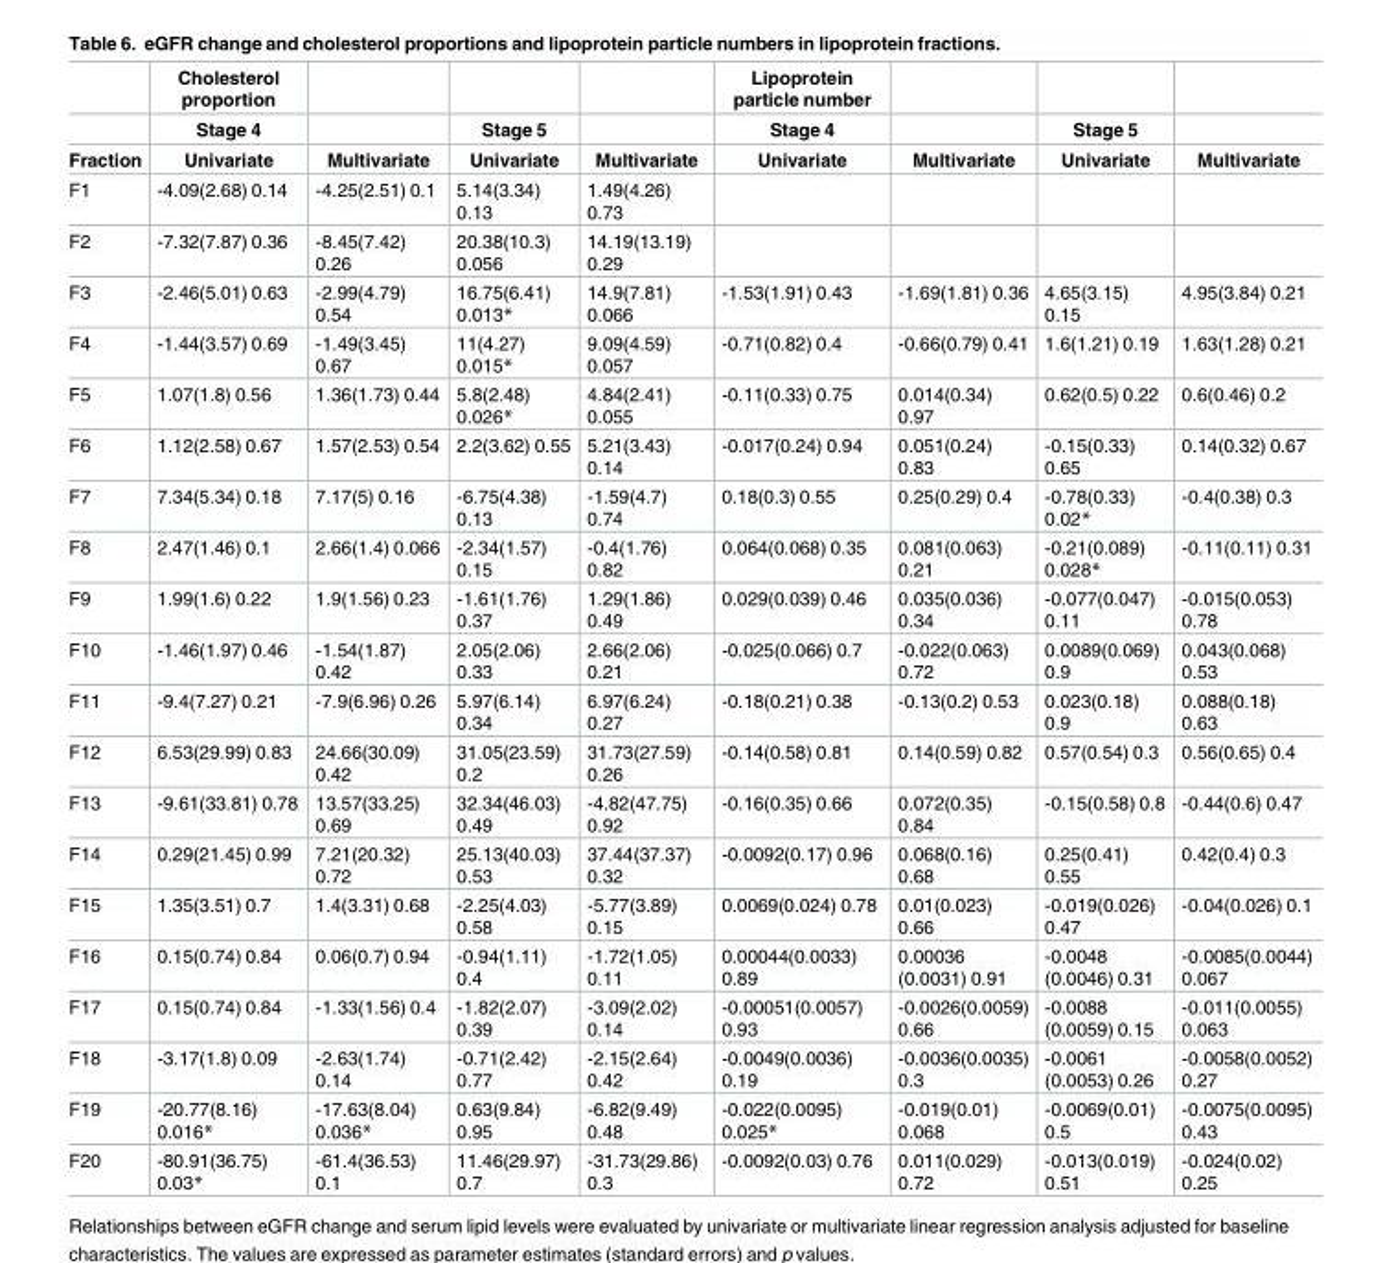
<table><thead><tr><td rowspan="3">Fraction</td><td rowspan="3">Cholesterol proportion Stage 4 Univariate</td><td rowspan="3">Multivariate</td><td rowspan="3">Stage 5 Univariate</td><td rowspan="3">Multivariate</td><td rowspan="3">Lipoprotein particle number Stage 4 Univariate</td><td rowspan="3">Multivariate</td><td rowspan="3">Stage 5 Univariate</td><td rowspan="3">Multivariate</td></tr><tr></tr><tr></tr></thead><tbody><tr><td>F1</td><td>-4.09(2.68) 0.14</td><td>-4.25(2.51) 0.1</td><td>5.14(3.34) 0.13</td><td>1.49(4.26) 0.73</td><td></td><td></td><td></td><td></td></tr><tr><td>F2</td><td>-7.32(7.87) 0.36</td><td>-8.45(7.42) 0.26</td><td>20.38(10.3) 0.056</td><td>14.19(13.19) 0.29</td><td></td><td></td><td></td><td></td></tr><tr><td>F3</td><td>-2.46(5.01) 0.63</td><td>-2.99(4.79) 0.54</td><td>16.75(6.41) 0.013*</td><td>14.9(7.81) 0.066</td><td>-1.53(1.91) 0.43</td><td>-1.69(1.81) 0.36</td><td>4.65(3.15) 0.15</td><td>4.95(3.84) 0.21</td></tr><tr><td>F4</td><td>-1.44(3.57) 0.69</td><td>-1.49(3.45) 0.67</td><td>11(4.27) 0.015*</td><td>9.09(4.59) 0.057</td><td>-0.71(0.82) 0.4</td><td>-0.66(0.79) 0.41</td><td>1.6(1.21) 0.19</td><td>1.63(1.28) 0.21</td></tr><tr><td>F5</td><td>1.07(1.8) 0.56</td><td>1.36(1.73) 0.44</td><td>5.8(2.48) 0.026*</td><td>4.84(2.41) 0.055</td><td>-0.11(0.33) 0.75</td><td>0.014(0.34) 0.97</td><td>0.62(0.5) 0.22</td><td>0.6(0.46) 0.2</td></tr><tr><td>F6</td><td>1.12(2.58) 0.67</td><td>1.57(2.53) 0.54</td><td>2.2(3.62) 0.55</td><td>5.21(3.43) 0.14</td><td>-0.017(0.24) 0.94</td><td>0.051(0.24) 0.83</td><td>-0.15(0.33) 0.65</td><td>0.14(0.32) 0.67</td></tr><tr><td>F7</td><td>7.34(5.34) 0.18</td><td>7.17(5) 0.16</td><td>-6.75(4.38) 0.13</td><td>-1.59(4.7) 0.74</td><td>0.18(0.3) 0.55</td><td>0.25(0.29) 0.4</td><td>-0.78(0.33) 0.02*</td><td>-0.4(0.38) 0.3</td></tr><tr><td>F8</td><td>2.47(1.46) 0.1</td><td>2.66(1.4) 0.066</td><td>-2.34(1.57) 0.15</td><td>-0.4(1.76) 0.82</td><td>0.064(0.068) 0.35</td><td>0.081(0.063) 0.21</td><td>-0.21(0.089) 0.028*</td><td>-0.11(0.11) 0.31</td></tr><tr><td>F9</td><td>1.99(1.6) 0.22</td><td>1.9(1.56) 0.23</td><td>-1.61(1.76) 0.37</td><td>1.29(1.86) 0.49</td><td>0.029(0.039) 0.46</td><td>0.035(0.036) 0.34</td><td>-0.077(0.047) 0.11</td><td>-0.015(0.053) 0.78</td></tr><tr><td>F10</td><td>-1.46(1.97) 0.46</td><td>-1.54(1.87) 0.42</td><td>2.05(2.06) 0.33</td><td>2.66(2.06) 0.21</td><td>-0.025(0.066) 0.7</td><td>-0.022(0.063) 0.72</td><td>0.0089(0.069) 0.9</td><td>0.043(0.068) 0.53</td></tr><tr><td>F11</td><td>-9.4(7.27) 0.21</td><td>-7.9(6.96) 0.26</td><td>5.97(6.14) 0.34</td><td>6.97(6.24) 0.27</td><td>-0.18(0.21) 0.38</td><td>-0.13(0.2) 0.53</td><td>0.023(0.18) 0.9</td><td>0.088(0.18) 0.63</td></tr><tr><td>F12</td><td>6.53(29.99) 0.83</td><td>24.66(30.09) 0.42</td><td>31.05(23.59) 0.2</td><td>31.73(27.59) 0.26</td><td>-0.14(0.58) 0.81</td><td>0.14(0.59) 0.82</td><td>0.57(0.54) 0.3</td><td>0.56(0.65) 0.4</td></tr><tr><td>F13</td><td>-9.61(33.81) 0.78</td><td>13.57(33.25) 0.69</td><td>32.34(46.03) 0.49</td><td>-4.82(47.75) 0.92</td><td>-0.16(0.35) 0.66</td><td>0.072(0.35) 0.84</td><td>-0.15(0.58) 0.8</td><td>-0.44(0.6) 0.47</td></tr><tr><td>F14</td><td>0.29(21.45) 0.99</td><td>7.21(20.32) 0.72</td><td>25.13(40.03) 0.53</td><td>37.44(37.37) 0.32</td><td>-0.0092(0.17) 0.96</td><td>0.068(0.16) 0.68</td><td>0.25(0.41) 0.55</td><td>0.42(0.4) 0.3</td></tr><tr><td>F15</td><td>1.35(3.51) 0.7</td><td>1.4(3.31) 0.68</td><td>-2.25(4.03) 0.58</td><td>-5.77(3.89) 0.15</td><td>0.0069(0.024) 0.78</td><td>0.01(0.023) 0.66</td><td>-0.019(0.026) 0.47</td><td>-0.04(0.026) 0.1</td></tr><tr><td>F16</td><td>0.15(0.74) 0.84</td><td>0.06(0.7) 0.94</td><td>-0.94(1.11) 0.4</td><td>-1.72(1.05) 0.11</td><td>0.00044(0.0033) 0.89</td><td>0.00036 (0.0031) 0.91</td><td>-0.0048 (0.0046) 0.31</td><td>-0.0085(0.0044) 0.067</td></tr><tr><td>F17</td><td>0.15(0.74) 0.84</td><td>-1.33(1.56) 0.4</td><td>-1.82(2.07) 0.39</td><td>-3.09(2.02) 0.14</td><td>-0.00051(0.0057) 0.93</td><td>-0.0026(0.0059) 0.66</td><td>-0.0088 (0.0059) 0.15</td><td>-0.011(0.0055) 0.063</td></tr><tr><td>F18</td><td>-3.17(1.8) 0.09</td><td>-2.63(1.74) 0.14</td><td>-0.71(2.42) 0.77</td><td>-2.15(2.64) 0.42</td><td>-0.0049(0.0036) 0.19</td><td>-0.0036(0.0035) 0.3</td><td>-0.0061 (0.0053) 0.26</td><td>-0.0058(0.0052) 0.27</td></tr><tr><td>F19</td><td>-20.77(8.16) 0.016*</td><td>-17.63(8.04) 0.036*</td><td>0.63(9.84) 0.95</td><td>-6.82(9.49) 0.48</td><td>-0.022(0.0095) 0.025*</td><td>-0.019(0.01) 0.068</td><td>-0.0069(0.01) 0.5</td><td>-0.0075(0.0095) 0.43</td></tr><tr><td>F20</td><td>-80.91(36.75) 0.03*</td><td>-61.4(36.53) 0.1</td><td>11.46(29.97) 0.7</td><td>-31.73(29.86) 0.3</td><td>-0.0092(0.03) 0.76</td><td>0.011(0.029) 0.72</td><td>-0.013(0.019) 0.51</td><td>-0.024(0.02) 0.25</td></tr></tbody></table>